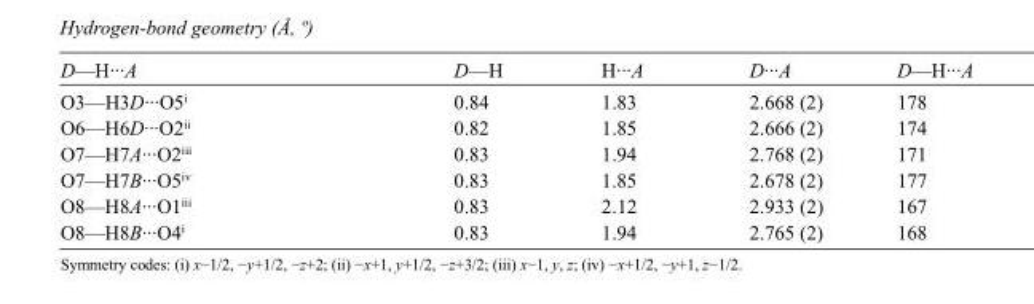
<table><tbody><tr><td>D—H···A</td><td>D—H</td><td>H···A</td><td>D···A</td><td>D—H···A</td></tr><tr><td>O3—H3D···O5<sup>i</sup></td><td>0.84</td><td>1.83</td><td>2.668 (2)</td><td>178</td></tr><tr><td>O6—H6D···O2<sup>ii</sup></td><td>0.82</td><td>1.85</td><td>2.666 (2)</td><td>174</td></tr><tr><td>O7—H7A···O2<sup>iii</sup></td><td>0.83</td><td>1.94</td><td>2.768 (2)</td><td>171</td></tr><tr><td>O7—H7B···O5<sup>iv</sup></td><td>0.83</td><td>1.85</td><td>2.678 (2)</td><td>177</td></tr><tr><td>O8—H8A···O1<sup>iii</sup></td><td>0.83</td><td>2.12</td><td>2.933 (2)</td><td>167</td></tr><tr><td>O8—H8B···O4<sup>i</sup></td><td>0.83</td><td>1.94</td><td>2.765 (2)</td><td>168</td></tr></tbody></table>